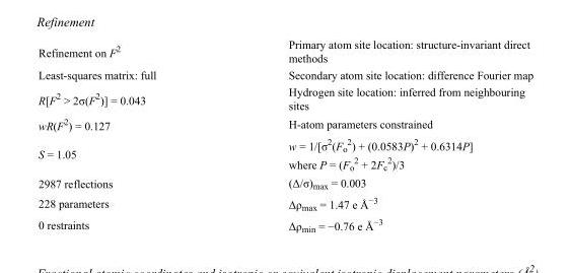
<table><tbody><tr><td>Refinement on F<sup>2</sup></td><td>Primary atom site location: structure-invariant direct methods</td></tr><tr><td>Least-squares matrix: full</td><td>Secondary atom site location: difference Fourier map</td></tr><tr><td>R[F<sup>2</sup> &gt; 2σ(F<sup>2</sup>)] = 0.043</td><td>Hydrogen site location: inferred from neighbouring sites</td></tr><tr><td>wR(F<sup>2</sup>) = 0.127</td><td>H-atom parameters constrained</td></tr><tr><td>S = 1.05</td><td>w = 1/[σ<sup>2</sup>(F<sub>o</sub> <sup>2</sup>) + (0.0583P)<sup>2</sup> + 0.6314P] where P = (F<sub>o</sub> <sup>2</sup> + 2F<sub>c</sub> <sup>2</sup>)/3</td></tr><tr><td>2987 reflections</td><td>(Δ/σ)<sub>max</sub> = 0.003</td></tr><tr><td>228 parameters</td><td>Δρ<sub>max</sub> = 1.47 e Å<sup>−3</sup></td></tr><tr><td>0 restraints</td><td>Δρ<sub>min</sub> = −0.76 e Å<sup>−3</sup></td></tr></tbody></table>